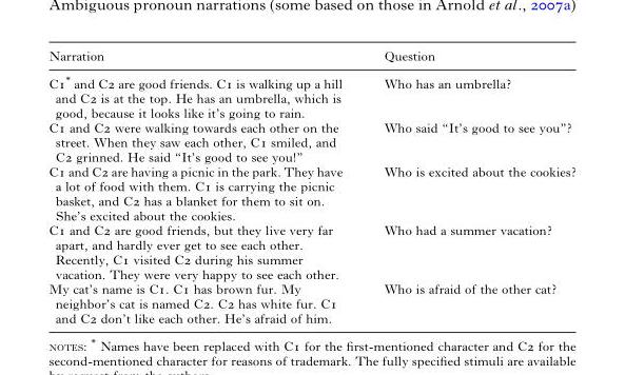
<table><thead><tr><td>Narration</td><td>Question</td></tr></thead><tbody><tr><td>C1* and C2 are good friends. C1 is walking up a hill and C2 is at the top. He has an umbrella, which is good, because it looks like it’s going to rain.</td><td>Who has an umbrella?</td></tr><tr><td>C1 and C2 were walking towards each other on the street. When they saw each other, C1 smiled, and C2 grinned. He said “It’s good to see you!”</td><td>Who said “It’s good to see you”?</td></tr><tr><td>C1 and C2 are having a picnic in the park. They have a lot of food with them. C1 is carrying the picnic basket, and C2 has a blanket for them to sit on. She’s excited about the cookies.</td><td>Who is excited about the cookies?</td></tr><tr><td>C1 and C2 are good friends, but they live very far apart, and hardly ever get to see each other. Recently, C1 visited C2 during his summer vacation. They were very happy to see each other.</td><td>Who had a summer vacation?</td></tr><tr><td>My cat’s name is C1. C1 has brown fur. My neighbor’s cat is named C2. C2 has white fur. C1 and C2 don’t like each other. He’s afraid of him.</td><td>Who is afraid of the other cat?</td></tr></tbody></table>